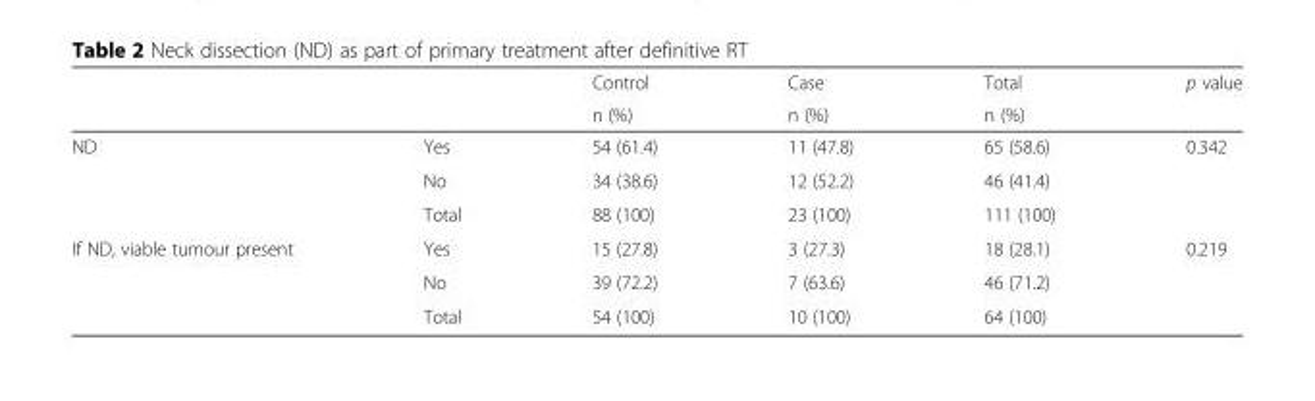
<table><thead><tr><td rowspan="2"></td><td rowspan="2"></td><td rowspan="2">Control n (%)</td><td rowspan="2">Case n (%)</td><td rowspan="2">Total n (%)</td><td rowspan="2">p value</td></tr><tr></tr></thead><tbody><tr><td rowspan="3">ND</td><td>Yes</td><td>54 (61.4)</td><td>11 (47.8)</td><td>65 (58.6)</td><td rowspan="3">0.342</td></tr><tr><td>No</td><td>34 (38.6)</td><td>12 (52.2)</td><td>46 (41.4)</td></tr><tr><td>Total</td><td>88 (100)</td><td>23 (100)</td><td>111 (100)</td></tr><tr><td rowspan="3">If ND, viable tumour present</td><td>Yes</td><td>15 (27.8)</td><td>3 (27.3)</td><td>18 (28.1)</td><td rowspan="3">0.219</td></tr><tr><td>No</td><td>39 (72.2)</td><td>7 (63.6)</td><td>46 (71.2)</td></tr><tr><td>Total</td><td>54 (100)</td><td>10 (100)</td><td>64 (100)</td></tr></tbody></table>